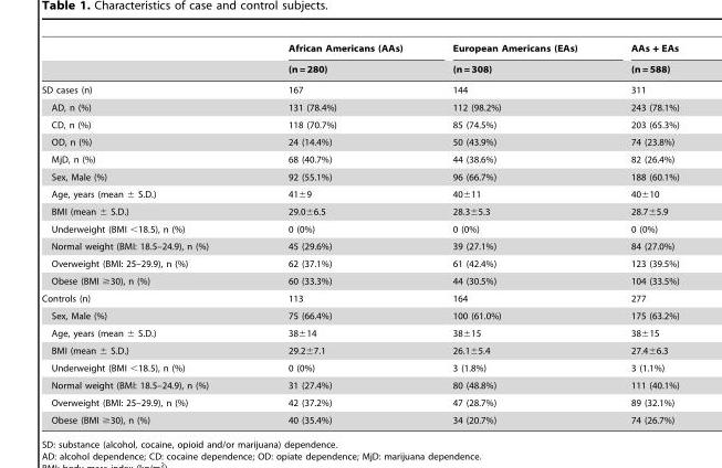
<table><thead><tr><td rowspan="2"></td><td rowspan="2">African Americans (AAs) (n = 280)</td><td rowspan="2">European Americans (EAs) (n = 308)</td><td rowspan="2">AAs + EAs (n = 588)</td></tr><tr></tr></thead><tbody><tr><td>SD cases (n)</td><td>167</td><td>144</td><td>311</td></tr><tr><td>AD, n (%)</td><td>131 (78.4%)</td><td>112 (98.2%)</td><td>243 (78.1%)</td></tr><tr><td>CD, n (%)</td><td>118 (70.7%)</td><td>85 (74.5%)</td><td>203 (65.3%)</td></tr><tr><td>OD, n (%)</td><td>24 (14.4%)</td><td>50 (43.9%)</td><td>74 (23.8%)</td></tr><tr><td>MjD, n (%)</td><td>68 (40.7%)</td><td>44 (38.6%)</td><td>82 (26.4%)</td></tr><tr><td>Sex, Male (%)</td><td>92 (55.1%)</td><td>96 (66.7%)</td><td>188 (60.1%)</td></tr><tr><td>Age, years (mean ± S.D.)</td><td>41±9</td><td>40±11</td><td>40±10</td></tr><tr><td>BMI (mean ± S.D.)</td><td>29.0±6.5</td><td>28.3±5.3</td><td>28.7±5.9</td></tr><tr><td>Underweight (BMI &lt;18.5), n (%)</td><td>0 (0%)</td><td>0 (0%)</td><td>0 (0%)</td></tr><tr><td>Normal weight (BMI: 18.5–24.9), n (%)</td><td>45 (29.6%)</td><td>39 (27.1%)</td><td>84 (27.0%)</td></tr><tr><td>Overweight (BMI: 25–29.9), n (%)</td><td>62 (37.1%)</td><td>61 (42.4%)</td><td>123 (39.5%)</td></tr><tr><td>Obese (BMI ≥30), n (%)</td><td>60 (33.3%)</td><td>44 (30.5%)</td><td>104 (33.5%)</td></tr><tr><td>Controls (n)</td><td>113</td><td>164</td><td>277</td></tr><tr><td>Sex, Male (%)</td><td>75 (66.4%)</td><td>100 (61.0%)</td><td>175 (63.2%)</td></tr><tr><td>Age, years (mean ± S.D.)</td><td>38±14</td><td>38±15</td><td>38±15</td></tr><tr><td>BMI (mean ± S.D.)</td><td>29.2±7.1</td><td>26.1±5.4</td><td>27.4±6.3</td></tr><tr><td>Underweight (BMI &lt;18.5), n (%)</td><td>0 (0%)</td><td>3 (1.8%)</td><td>3 (1.1%)</td></tr><tr><td>Normal weight (BMI: 18.5–24.9), n (%)</td><td>31 (27.4%)</td><td>80 (48.8%)</td><td>111 (40.1%)</td></tr><tr><td>Overweight (BMI: 25–29.9), n (%)</td><td>42 (37.2%)</td><td>47 (28.7%)</td><td>89 (32.1%)</td></tr><tr><td>Obese (BMI ≥30), n (%)</td><td>40 (35.4%)</td><td>34 (20.7%)</td><td>74 (26.7%)</td></tr></tbody></table>